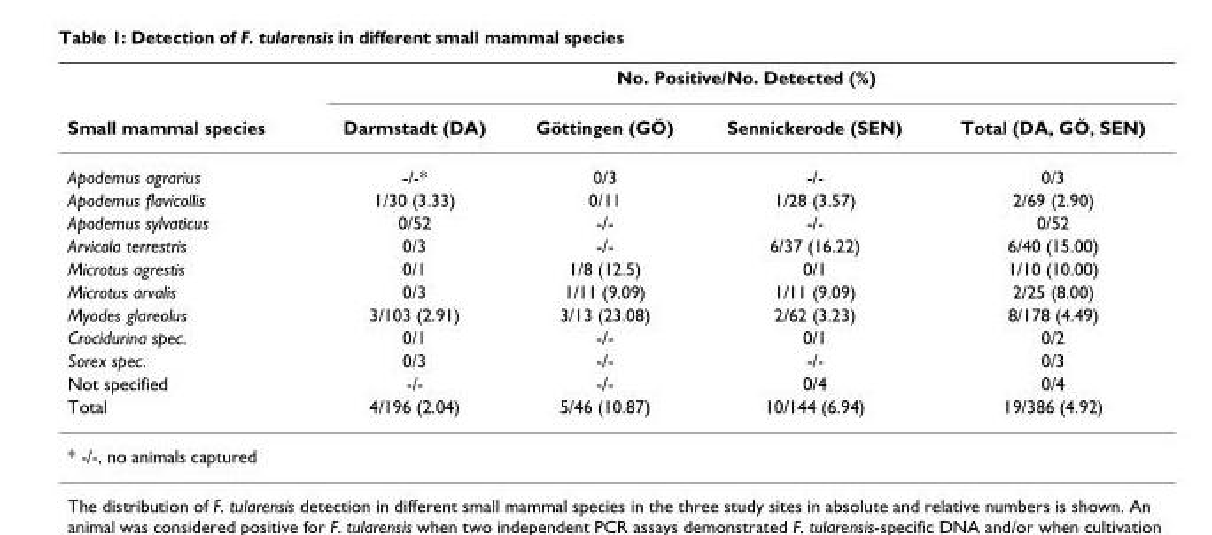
<table><thead><tr><td rowspan="2">Small mammal species</td><td colspan="4">No. Positive/No. Detected (%)</td></tr><tr><td>Darmstadt (DA)</td><td>Göttingen (GÖ)</td><td>Sennickerode (SEN)</td><td>Total (DA, GÖ, SEN)</td></tr></thead><tbody><tr><td>Apodemus agrarius</td><td>-/-*</td><td>0/3</td><td>-/-</td><td>0/3</td></tr><tr><td>Apodemus flavicollis</td><td>1/30 (3.33)</td><td>0/11</td><td>1/28 (3.57)</td><td>2/69 (2.90)</td></tr><tr><td>Apodemus sylvaticus</td><td>0/52</td><td>-/-</td><td>-/-</td><td>0/52</td></tr><tr><td>Arvicola terrestris</td><td>0/3</td><td>-/-</td><td>6/37 (16.22)</td><td>6/40 (15.00)</td></tr><tr><td>Microtus agrestis</td><td>0/1</td><td>1/8 (12.5)</td><td>0/1</td><td>1/10 (10.00)</td></tr><tr><td>Microtus arvalis</td><td>0/3</td><td>1/11 (9.09)</td><td>1/11 (9.09)</td><td>2/25 (8.00)</td></tr><tr><td>Myodes glareolus</td><td>3/103 (2.91)</td><td>3/13 (23.08)</td><td>2/62 (3.23)</td><td>8/178 (4.49)</td></tr><tr><td>Crocidurina spec.</td><td>0/1</td><td>-/-</td><td>0/1</td><td>0/2</td></tr><tr><td>Sorex spec.</td><td>0/3</td><td>-/-</td><td>-/-</td><td>0/3</td></tr><tr><td>Not specified</td><td>-/-</td><td>-/-</td><td>0/4</td><td>0/4</td></tr><tr><td>Total</td><td>4/196 (2.04)</td><td>5/46 (10.87)</td><td>10/144 (6.94)</td><td>19/386 (4.92)</td></tr><tr><td colspan="5">* -/-, no animals captured</td></tr></tbody></table>